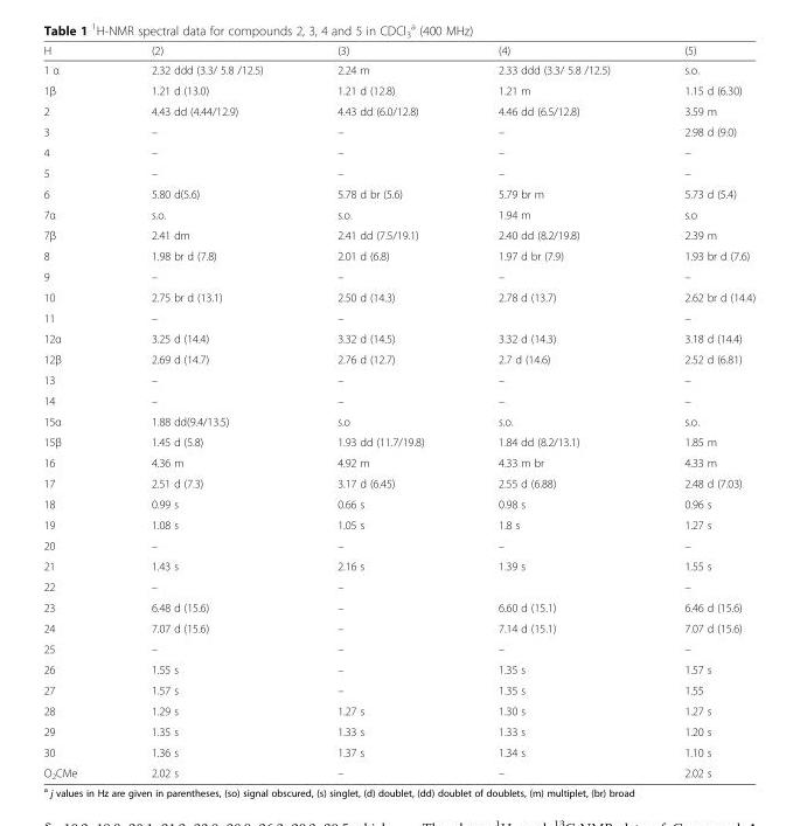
<table><thead><tr><td>H</td><td>(2)</td><td>(3)</td><td>(4)</td><td>(5)</td></tr></thead><tbody><tr><td>1 α</td><td>2.32 ddd (3.3/ 5.8 /12.5)</td><td>2.24 m</td><td>2.33 ddd (3.3/ 5.8 /12.5)</td><td>s.o.</td></tr><tr><td>1β</td><td>1.21 d (13.0)</td><td>1.21 d (12.8)</td><td>1.21 m</td><td>1.15 d (6.30)</td></tr><tr><td>2</td><td>4.43 dd (4.44/12.9)</td><td>4.43 dd (6.0/12.8)</td><td>4.46 dd (6.5/12.8)</td><td>3.59 m</td></tr><tr><td>3</td><td>–</td><td>–</td><td>–</td><td>2.98 d (9.0)</td></tr><tr><td>4</td><td>–</td><td>–</td><td>–</td><td>–</td></tr><tr><td>5</td><td>–</td><td>–</td><td>–</td><td>–</td></tr><tr><td>6</td><td>5.80 d(5.6)</td><td>5.78 d br (5.6)</td><td>5.79 br m</td><td>5.73 d (5.4)</td></tr><tr><td>7α</td><td>s.o.</td><td>s.o.</td><td>1.94 m</td><td>s.o</td></tr><tr><td>7β</td><td>2.41 dm</td><td>2.41 dd (7.5/19.1)</td><td>2.40 dd (8.2/19.8)</td><td>2.39 m</td></tr><tr><td>8</td><td>1.98 br d (7.8)</td><td>2.01 d (6.8)</td><td>1.97 d br (7.9)</td><td>1.93 br d (7.6)</td></tr><tr><td>9</td><td>–</td><td>–</td><td>–</td><td>–</td></tr><tr><td>10</td><td>2.75 br d (13.1)</td><td>2.50 d (14.3)</td><td>2.78 d (13.7)</td><td>2.62 br d (14.4)</td></tr><tr><td>11</td><td>–</td><td>–</td><td></td><td>–</td></tr><tr><td>12α</td><td>3.25 d (14.4)</td><td>3.32 d (14.5)</td><td>3.32 d (14.3)</td><td>3.18 d (14.4)</td></tr><tr><td>12β</td><td>2.69 d (14.7)</td><td>2.76 d (12.7)</td><td>2.7 d (14.6)</td><td>2.52 d (6.81)</td></tr><tr><td>13</td><td>–</td><td>–</td><td>–</td><td>–</td></tr><tr><td>14</td><td>–</td><td>–</td><td>–</td><td>–</td></tr><tr><td>15α</td><td>1.88 dd(9.4/13.5)</td><td>s.o</td><td>s.o.</td><td>s.o.</td></tr><tr><td>15β</td><td>1.45 d (5.8)</td><td>1.93 dd (11.7/19.8)</td><td>1.84 dd (8.2/13.1)</td><td>1.85 m</td></tr><tr><td>16</td><td>4.36 m</td><td>4.92 m</td><td>4.33 m br</td><td>4.33 m</td></tr><tr><td>17</td><td>2.51 d (7.3)</td><td>3.17 d (6.45)</td><td>2.55 d (6.88)</td><td>2.48 d (7.03)</td></tr><tr><td>18</td><td>0.99 s</td><td>0.66 s</td><td>0.98 s</td><td>0.96 s</td></tr><tr><td>19</td><td>1.08 s</td><td>1.05 s</td><td>1.8 s</td><td>1.27 s</td></tr><tr><td>20</td><td>–</td><td>–</td><td>–</td><td>–</td></tr><tr><td>21</td><td>1.43 s</td><td>2.16 s</td><td>1.39 s</td><td>1.55 s</td></tr><tr><td>22</td><td>–</td><td>–</td><td></td><td>–</td></tr><tr><td>23</td><td>6.48 d (15.6)</td><td>–</td><td>6.60 d (15.1)</td><td>6.46 d (15.6)</td></tr><tr><td>24</td><td>7.07 d (15.6)</td><td>–</td><td>7.14 d (15.1)</td><td>7.07 d (15.6)</td></tr><tr><td>25</td><td>–</td><td>–</td><td>–</td><td>–</td></tr><tr><td>26</td><td>1.55 s</td><td>–</td><td>1.35 s</td><td>1.57 s</td></tr><tr><td>27</td><td>1.57 s</td><td>–</td><td>1.35 s</td><td>1.55</td></tr><tr><td>28</td><td>1.29 s</td><td>1.27 s</td><td>1.30 s</td><td>1.27 s</td></tr><tr><td>29</td><td>1.35 s</td><td>1.33 s</td><td>1.33 s</td><td>1.20 s</td></tr><tr><td>30</td><td>1.36 s</td><td>1.37 s</td><td>1.34 s</td><td>1.10 s</td></tr><tr><td>O<sub>2</sub>CMe</td><td>2.02 s</td><td>–</td><td>–</td><td>2.02 s</td></tr></tbody></table>